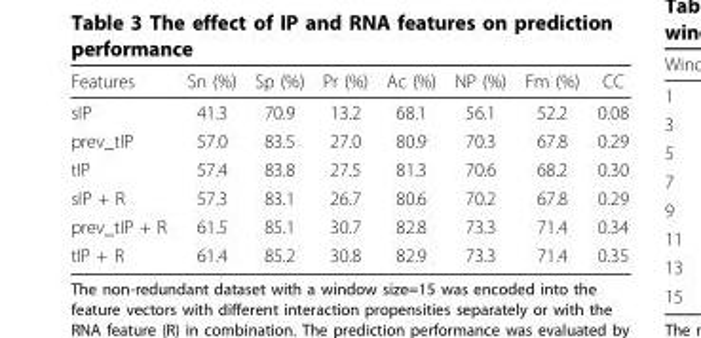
<table><thead><tr><td>Features</td><td>Sn (%)</td><td>Sp (%)</td><td>Pr (%)</td><td>Ac (%)</td><td>NP (%)</td><td>Fm (%)</td><td>CC</td></tr></thead><tbody><tr><td>sIP</td><td>41.3</td><td>70.9</td><td>13.2</td><td>68.1</td><td>56.1</td><td>52.2</td><td>0.08</td></tr><tr><td>prev_tIP</td><td>57.0</td><td>83.5</td><td>27.0</td><td>80.9</td><td>70.3</td><td>67.8</td><td>0.29</td></tr><tr><td>tIP</td><td>57.4</td><td>83.8</td><td>27.5</td><td>81.3</td><td>70.6</td><td>68.2</td><td>0.30</td></tr><tr><td>sIP + R</td><td>57.3</td><td>83.1</td><td>26.7</td><td>80.6</td><td>70.2</td><td>67.8</td><td>0.29</td></tr><tr><td>prev_tIP + R</td><td>61.5</td><td>85.1</td><td>30.7</td><td>82.8</td><td>73.3</td><td>71.4</td><td>0.34</td></tr><tr><td>tIP + R</td><td>61.4</td><td>85.2</td><td>30.8</td><td>82.9</td><td>73.3</td><td>71.4</td><td>0.35</td></tr></tbody></table>